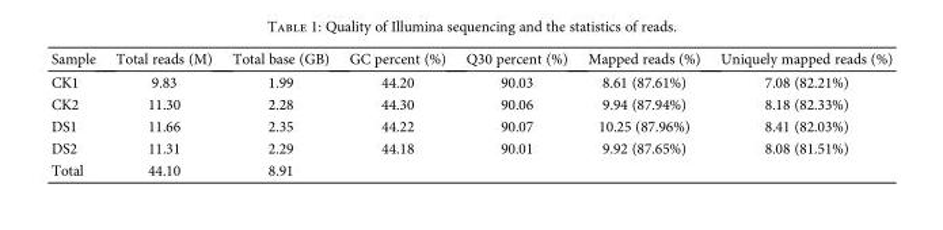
<table><thead><tr><td>Sample</td><td>Total reads (M)</td><td>Total base (GB)</td><td>GC percent (%)</td><td>Q30 percent (%)</td><td>Mapped reads (%)</td><td>Uniquely mapped reads (%)</td></tr></thead><tbody><tr><td>CK1</td><td>9.83</td><td>1.99</td><td>44.20</td><td>90.03</td><td>8.61 (87.61%)</td><td>7.08 (82.21%)</td></tr><tr><td>CK2</td><td>11.30</td><td>2.28</td><td>44.30</td><td>90.06</td><td>9.94 (87.94%)</td><td>8.18 (82.33%)</td></tr><tr><td>DS1</td><td>11.66</td><td>2.35</td><td>44.22</td><td>90.07</td><td>10.25 (87.96%)</td><td>8.41 (82.03%)</td></tr><tr><td>DS2</td><td>11.31</td><td>2.29</td><td>44.18</td><td>90.01</td><td>9.92 (87.65%)</td><td>8.08 (81.51%)</td></tr><tr><td>Total</td><td>44.10</td><td>8.91</td><td></td><td></td><td></td><td></td></tr></tbody></table>